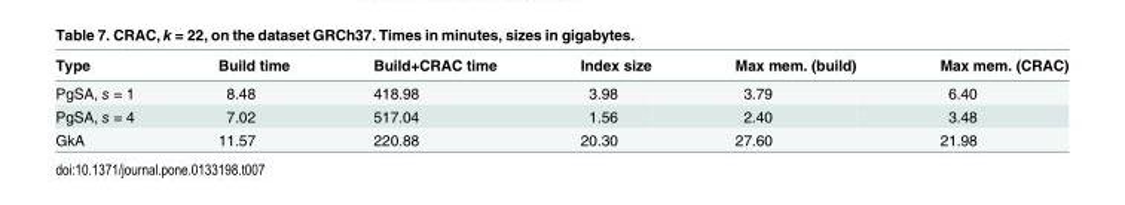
<table><thead><tr><td>Type</td><td>Build time</td><td>Build+CRAC time</td><td>Index size</td><td>Max mem. (build)</td><td>Max mem. (CRAC)</td></tr></thead><tbody><tr><td>PgSA, s = 1</td><td>8.48</td><td>418.98</td><td>3.98</td><td>3.79</td><td>6.40</td></tr><tr><td>PgSA, s = 4</td><td>7.02</td><td>517.04</td><td>1.56</td><td>2.40</td><td>3.48</td></tr><tr><td>GkA</td><td>11.57</td><td>220.88</td><td>20.30</td><td>27.60</td><td>21.98</td></tr></tbody></table>